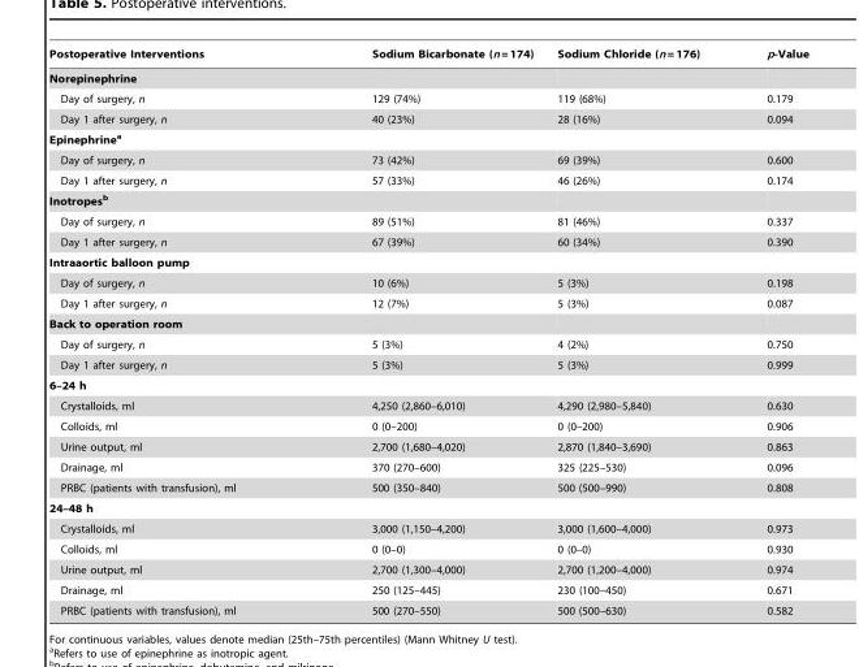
<table><thead><tr><td>Postoperative Interventions</td><td>Sodium Bicarbonate (n = 174)</td><td>Sodium Chloride (n = 176)</td><td>p-Value</td></tr></thead><tbody><tr><td colspan="4">Norepinephrine</td></tr><tr><td>Day of surgery, n</td><td>129 (74%)</td><td>119 (68%)</td><td>0.179</td></tr><tr><td>Day 1 after surgery, n</td><td>40 (23%)</td><td>28 (16%)</td><td>0.094</td></tr><tr><td colspan="4">Epinephrinea</td></tr><tr><td>Day of surgery, n</td><td>73 (42%)</td><td>69 (39%)</td><td>0.600</td></tr><tr><td>Day 1 after surgery, n</td><td>57 (33%)</td><td>46 (26%)</td><td>0.174</td></tr><tr><td colspan="4">Inotropesb</td></tr><tr><td>Day of surgery, n</td><td>89 (51%)</td><td>81 (46%)</td><td>0.337</td></tr><tr><td>Day 1 after surgery, n</td><td>67 (39%)</td><td>60 (34%)</td><td>0.390</td></tr><tr><td colspan="4">Intraaortic balloon pump</td></tr><tr><td>Day of surgery, n</td><td>10 (6%)</td><td>5 (3%)</td><td>0.198</td></tr><tr><td>Day 1 after surgery, n</td><td>12 (7%)</td><td>5 (3%)</td><td>0.087</td></tr><tr><td colspan="4">Back to operation room</td></tr><tr><td>Day of surgery, n</td><td>5 (3%)</td><td>4 (2%)</td><td>0.750</td></tr><tr><td>Day 1 after surgery, n</td><td>5 (3%)</td><td>5 (3%)</td><td>0.999</td></tr><tr><td colspan="4">6–24 h</td></tr><tr><td>Crystalloids, ml</td><td>4,250 (2,860–6,010)</td><td>4,290 (2,980–5,840)</td><td>0.630</td></tr><tr><td>Colloids, ml</td><td>0 (0–200)</td><td>0 (0–200)</td><td>0.906</td></tr><tr><td>Urine output, ml</td><td>2,700 (1,680–4,020)</td><td>2,870 (1,840–3,690)</td><td>0.863</td></tr><tr><td>Drainage, ml</td><td>370 (270–600)</td><td>325 (225–530)</td><td>0.096</td></tr><tr><td>PRBC (patients with transfusion), ml</td><td>500 (350–840)</td><td>500 (500–990)</td><td>0.808</td></tr><tr><td colspan="4">24–48 h</td></tr><tr><td>Crystalloids, ml</td><td>3,000 (1,150–4,200)</td><td>3,000 (1,600–4,000)</td><td>0.973</td></tr><tr><td>Colloids, ml</td><td>0 (0–0)</td><td>0 (0–0)</td><td>0.930</td></tr><tr><td>Urine output, ml</td><td>2,700 (1,300–4,000)</td><td>2,700 (1,200–4,000)</td><td>0.974</td></tr><tr><td>Drainage, ml</td><td>250 (125–445)</td><td>230 (100–450)</td><td>0.671</td></tr><tr><td>PRBC (patients with transfusion), ml</td><td>500 (270–550)</td><td>500 (500–630)</td><td>0.582</td></tr></tbody></table>